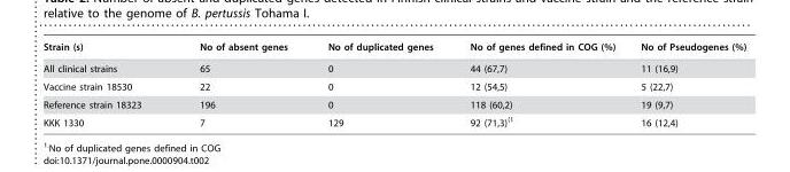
<table><thead><tr><td>Strain (s)</td><td>No of absent genes</td><td>No of duplicated genes</td><td>No of genes defined in COG (%)</td><td>No of Pseudogenes (%)</td></tr></thead><tbody><tr><td>All clinical strains</td><td>65</td><td>0</td><td>44 (67,7)</td><td>11 (16,9)</td></tr><tr><td>Vaccine strain 18530</td><td>22</td><td>0</td><td>12 (54,5)</td><td>5 (22,7)</td></tr><tr><td>Reference strain 18323</td><td>196</td><td>0</td><td>118 (60,2)</td><td>19 (9,7)</td></tr><tr><td>KKK 1330</td><td>7</td><td>129</td><td>92 (71,3)(1</td><td>16 (12,4)</td></tr></tbody></table>